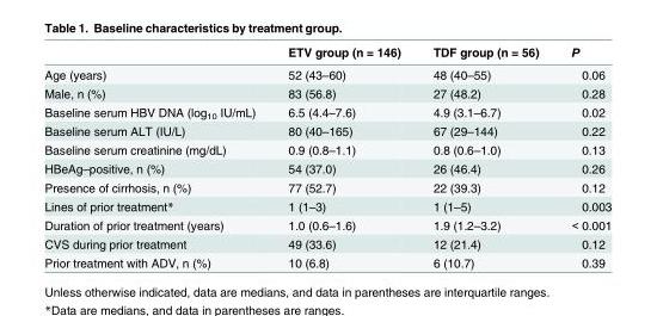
<table><thead><tr><td></td><td>ETV group (n = 146)</td><td>TDF group (n = 56)</td><td>P</td></tr></thead><tbody><tr><td>Age (years)</td><td>52 (43–60)</td><td>48 (40–55)</td><td>0.06</td></tr><tr><td>Male, n (%)</td><td>83 (56.8)</td><td>27 (48.2)</td><td>0.28</td></tr><tr><td>Baseline serum HBV DNA (log<sub>10</sub> IU/mL)</td><td>6.5 (4.4–7.6)</td><td>4.9 (3.1–6.7)</td><td>0.02</td></tr><tr><td>Baseline serum ALT (IU/L)</td><td>80 (40–165)</td><td>67 (29–144)</td><td>0.22</td></tr><tr><td>Baseline serum creatinine (mg/dL)</td><td>0.9 (0.8–1.1)</td><td>0.8 (0.6–1.0)</td><td>0.13</td></tr><tr><td>HBeAg–positive, n (%)</td><td>54 (37.0)</td><td>26 (46.4)</td><td>0.26</td></tr><tr><td>Presence of cirrhosis, n (%)</td><td>77 (52.7)</td><td>22 (39.3)</td><td>0.12</td></tr><tr><td>Lines of prior treatment*</td><td>1 (1–3)</td><td>1 (1–5)</td><td>0.003</td></tr><tr><td>Duration of prior treatment (years)</td><td>1.0 (0.6–1.6)</td><td>1.9 (1.2–3.2)</td><td>&lt; 0.001</td></tr><tr><td>CVS during prior treatment</td><td>49 (33.6)</td><td>12 (21.4)</td><td>0.12</td></tr><tr><td>Prior treatment with ADV, n (%)</td><td>10 (6.8)</td><td>6 (10.7)</td><td>0.39</td></tr></tbody></table>